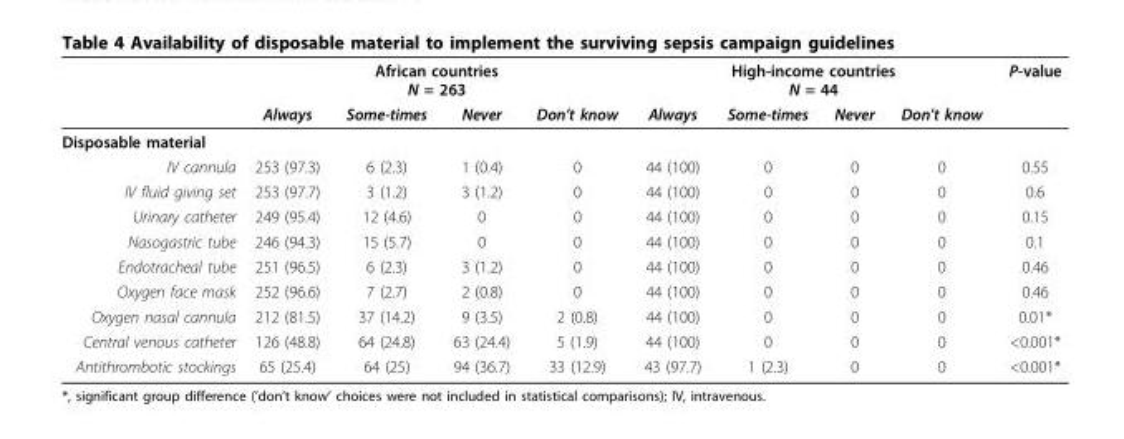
<table><thead><tr><td rowspan="2"></td><td colspan="4">African countries N = 263</td><td colspan="4">High-income countries N = 44</td><td rowspan="2">P-value</td></tr><tr><td>Always</td><td>Some-times</td><td>Never</td><td>Don’t know</td><td>Always</td><td>Some-times</td><td>Never</td><td>Don’t know</td></tr></thead><tbody><tr><td colspan="10">Disposable material</td></tr><tr><td>IV cannula</td><td>253 (97.3)</td><td>6 (2.3)</td><td>1 (0.4)</td><td>0</td><td>44 (100)</td><td>0</td><td>0</td><td>0</td><td>0.55</td></tr><tr><td>IV fluid giving set</td><td>253 (97.7)</td><td>3 (1.2)</td><td>3 (1.2)</td><td>0</td><td>44 (100)</td><td>0</td><td>0</td><td>0</td><td>0.6</td></tr><tr><td>Urinary catheter</td><td>249 (95.4)</td><td>12 (4.6)</td><td>0</td><td>0</td><td>44 (100)</td><td>0</td><td>0</td><td>0</td><td>0.15</td></tr><tr><td>Nasogastric tube</td><td>246 (94.3)</td><td>15 (5.7)</td><td>0</td><td>0</td><td>44 (100)</td><td>0</td><td>0</td><td>0</td><td>0.1</td></tr><tr><td>Endotracheal tube</td><td>251 (96.5)</td><td>6 (2.3)</td><td>3 (1.2)</td><td>0</td><td>44 (100)</td><td>0</td><td>0</td><td>0</td><td>0.46</td></tr><tr><td>Oxygen face mask</td><td>252 (96.6)</td><td>7 (2.7)</td><td>2 (0.8)</td><td>0</td><td>44 (100)</td><td>0</td><td>0</td><td>0</td><td>0.46</td></tr><tr><td>Oxygen nasal cannula</td><td>212 (81.5)</td><td>37 (14.2)</td><td>9 (3.5)</td><td>2 (0.8)</td><td>44 (100)</td><td>0</td><td>0</td><td>0</td><td>0.01*</td></tr><tr><td>Central venous catheter</td><td>126 (48.8)</td><td>64 (24.8)</td><td>63 (24.4)</td><td>5 (1.9)</td><td>44 (100)</td><td>0</td><td>0</td><td>0</td><td>&lt;0.001*</td></tr><tr><td>Antithrombotic stockings</td><td>65 (25.4)</td><td>64 (25)</td><td>94 (36.7)</td><td>33 (12.9)</td><td>43 (97.7)</td><td>1 (2.3)</td><td>0</td><td>0</td><td>&lt;0.001*</td></tr></tbody></table>